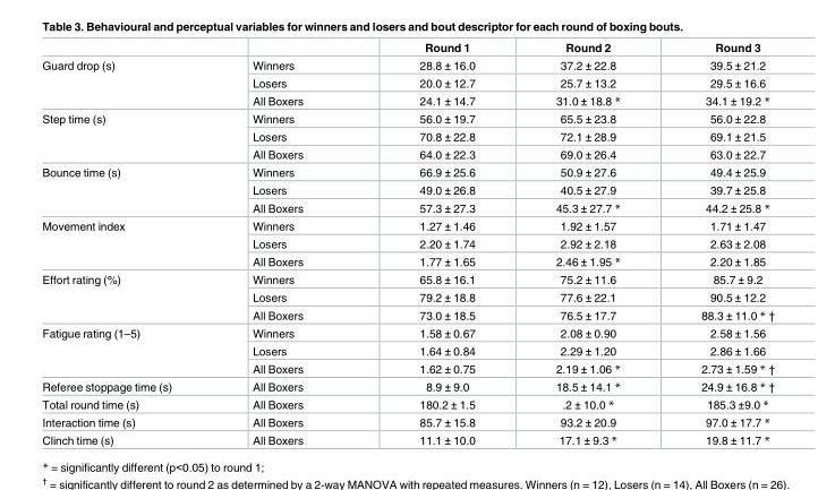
<table><thead><tr><td></td><td></td><td>Round 1</td><td>Round 2</td><td>Round 3</td></tr></thead><tbody><tr><td rowspan="3">Guard drop (s)</td><td>Winners</td><td>28.8 ± 16.0</td><td>37.2 ± 22.8</td><td>39.5 ± 21.2</td></tr><tr><td>Losers</td><td>20.0 ± 12.7</td><td>25.7 ± 13.2</td><td>29.5 ± 16.6</td></tr><tr><td>All Boxers</td><td>24.1 ± 14.7</td><td>31.0 ± 18.8 *</td><td>34.1 ± 19.2 *</td></tr><tr><td rowspan="3">Step time (s)</td><td>Winners</td><td>56.0 ± 19.7</td><td>65.5 ± 23.8</td><td>56.0 ± 22.8</td></tr><tr><td>Losers</td><td>70.8 ± 22.8</td><td>72.1 ± 28.9</td><td>69.1 ± 21.5</td></tr><tr><td>All Boxers</td><td>64.0 ± 22.3</td><td>69.0 ± 26.4</td><td>63.0 ± 22.7</td></tr><tr><td rowspan="3">Bounce time (s)</td><td>Winners</td><td>66.9 ± 25.6</td><td>50.9 ± 27.6</td><td>49.4 ± 25.9</td></tr><tr><td>Losers</td><td>49.0 ± 26.8</td><td>40.5 ± 27.9</td><td>39.7 ± 25.8</td></tr><tr><td>All Boxers</td><td>57.3 ± 27.3</td><td>45.3 ± 27.7 *</td><td>44.2 ± 25.8 *</td></tr><tr><td rowspan="3">Movement index</td><td>Winners</td><td>1.27 ± 1.46</td><td>1.92 ± 1.57</td><td>1.71 ± 1.47</td></tr><tr><td>Losers</td><td>2.20 ± 1.74</td><td>2.92 ± 2.18</td><td>2.63 ± 2.08</td></tr><tr><td>All Boxers</td><td>1.77 ± 1.65</td><td>2.46 ± 1.95 *</td><td>2.20 ± 1.85</td></tr><tr><td rowspan="3">Effort rating (%)</td><td>Winners</td><td>65.8 ± 16.1</td><td>75.2 ± 11.6</td><td>85.7 ± 9.2</td></tr><tr><td>Losers</td><td>79.2 ± 18.8</td><td>77.6 ± 22.1</td><td>90.5 ± 12.2</td></tr><tr><td>All Boxers</td><td>73.0 ± 18.5</td><td>76.5 ± 17.7</td><td>88.3 ± 11.0 * †</td></tr><tr><td rowspan="3">Fatigue rating (1–5)</td><td>Winners</td><td>1.58 ± 0.67</td><td>2.08 ± 0.90</td><td>2.58 ± 1.56</td></tr><tr><td>Losers</td><td>1.64 ± 0.84</td><td>2.29 ± 1.20</td><td>2.86 ± 1.66</td></tr><tr><td>All Boxers</td><td>1.62 ± 0.75</td><td>2.19 ± 1.06 *</td><td>2.73 ± 1.59 * †</td></tr><tr><td>Referee stoppage time (s)</td><td>All Boxers</td><td>8.9 ± 9.0</td><td>18.5 ± 14.1 *</td><td>24.9 ± 16.8 * †</td></tr><tr><td>Total round time (s)</td><td>All Boxers</td><td>180.2 ± 1.5</td><td>.2 ± 10.0 *</td><td>185.3 ±9.0 *</td></tr><tr><td>Interaction time (s)</td><td>All Boxers</td><td>85.7 ± 15.8</td><td>93.2 ± 20.9</td><td>97.0 ± 17.7 *</td></tr><tr><td>Clinch time (s)</td><td>All Boxers</td><td>11.1 ± 10.0</td><td>17.1 ± 9.3 *</td><td>19.8 ± 11.7 *</td></tr></tbody></table>